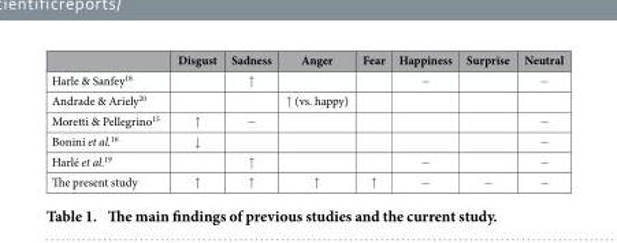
<table><thead><tr><td></td><td>Disgust</td><td>Sadness</td><td>Anger</td><td>Fear</td><td>Happiness</td><td>Surprise</td><td>Neutral</td></tr></thead><tbody><tr><td>Harle &amp; Sanfey<sup>18</sup></td><td></td><td>↑</td><td></td><td></td><td>−</td><td></td><td>−</td></tr><tr><td>Andrade &amp; Ariely<sup>20</sup></td><td></td><td></td><td>↑ (vs. happy)</td><td></td><td></td><td></td><td></td></tr><tr><td>Moretti &amp; Pellegrino<sup>15</sup></td><td>↑</td><td>−</td><td></td><td></td><td></td><td></td><td>−</td></tr><tr><td>Bonini et al.<sup>16</sup></td><td>↓</td><td></td><td></td><td></td><td></td><td></td><td>−</td></tr><tr><td>Harlé et al.<sup>19</sup></td><td></td><td>↑</td><td></td><td></td><td>−</td><td></td><td>−</td></tr><tr><td>The present study</td><td>↑</td><td>↑</td><td>↑</td><td>↑</td><td>−</td><td>−</td><td>−</td></tr></tbody></table>